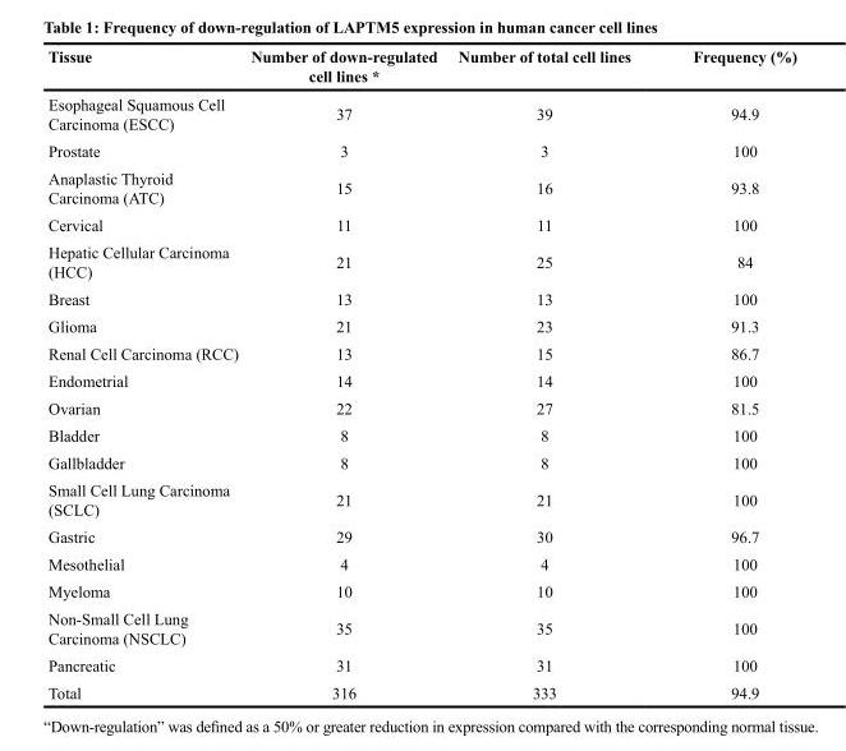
<table><thead><tr><td>Tissue</td><td>Number of down-regulated cell lines *</td><td>Number of total cell lines</td><td>Frequency (%)</td></tr></thead><tbody><tr><td>Esophageal Squamous Cell Carcinoma (ESCC)</td><td>37</td><td>39</td><td>94.9</td></tr><tr><td>Prostate</td><td>3</td><td>3</td><td>100</td></tr><tr><td>Anaplastic Thyroid Carcinoma (ATC)</td><td>15</td><td>16</td><td>93.8</td></tr><tr><td>Cervical</td><td>11</td><td>11</td><td>100</td></tr><tr><td>Hepatic Cellular Carcinoma (HCC)</td><td>21</td><td>25</td><td>84</td></tr><tr><td>Breast</td><td>13</td><td>13</td><td>100</td></tr><tr><td>Glioma</td><td>21</td><td>23</td><td>91.3</td></tr><tr><td>Renal Cell Carcinoma (RCC)</td><td>13</td><td>15</td><td>86.7</td></tr><tr><td>Endometrial</td><td>14</td><td>14</td><td>100</td></tr><tr><td>Ovarian</td><td>22</td><td>27</td><td>81.5</td></tr><tr><td>Bladder</td><td>8</td><td>8</td><td>100</td></tr><tr><td>Gallbladder</td><td>8</td><td>8</td><td>100</td></tr><tr><td>Small Cell Lung Carcinoma (SCLC)</td><td>21</td><td>21</td><td>100</td></tr><tr><td>Gastric</td><td>29</td><td>30</td><td>96.7</td></tr><tr><td>Mesothelial</td><td>4</td><td>4</td><td>100</td></tr><tr><td>Myeloma</td><td>10</td><td>10</td><td>100</td></tr><tr><td>Non-Small Cell Lung Carcinoma (NSCLC)</td><td>35</td><td>35</td><td>100</td></tr><tr><td>Pancreatic</td><td>31</td><td>31</td><td>100</td></tr><tr><td>Total</td><td>316</td><td>333</td><td>94.9</td></tr></tbody></table>